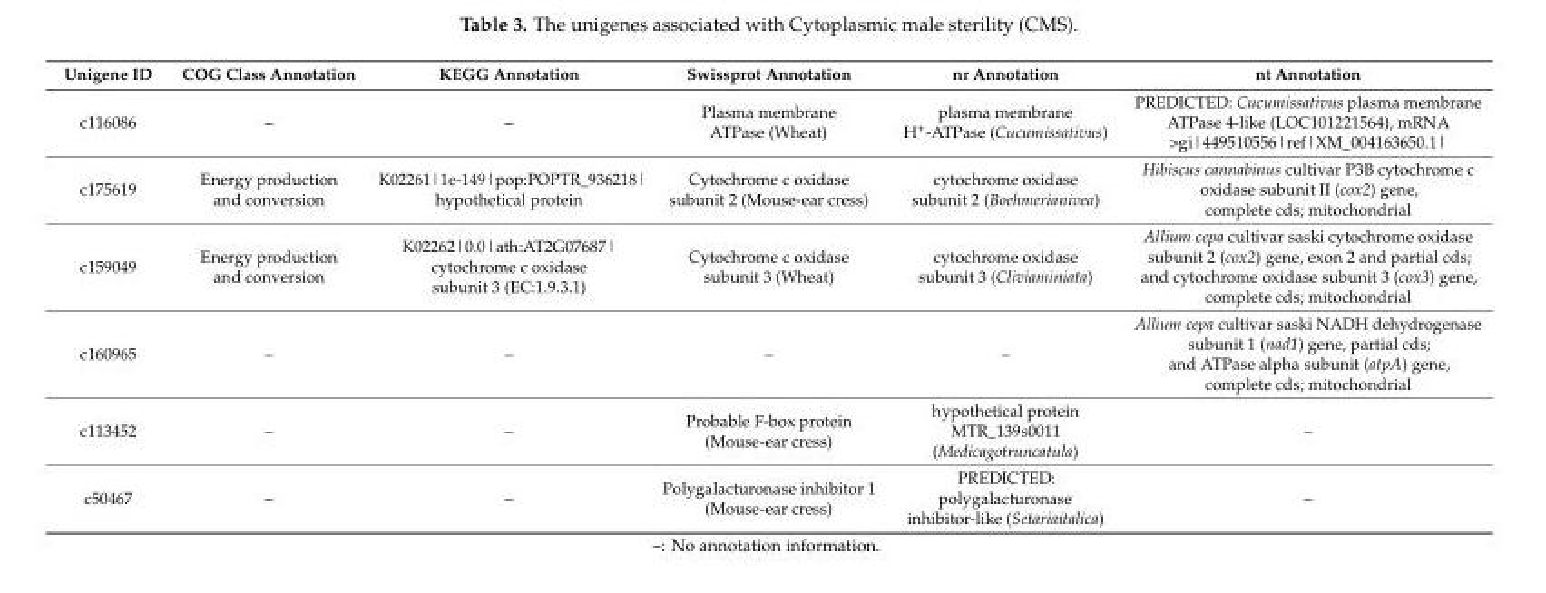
<table><thead><tr><td>Unigene ID</td><td>COG Class Annotation</td><td>KEGG Annotation</td><td>Swissprot Annotation</td><td>nr Annotation</td><td>nt Annotation</td></tr></thead><tbody><tr><td>c116086</td><td>–</td><td>–</td><td>Plasma membrane ATPase (Wheat)</td><td>plasma membrane H<sup>+</sup>-ATPase (Cucumissativus)</td><td>PREDICTED: Cucumissativus plasma membrane ATPase 4-like (LOC101221564), mRNA &gt;gi|449510556|ref|XM_004163650.1|</td></tr><tr><td>c175619</td><td>Energy production and conversion</td><td>K02261|1e-149|pop:POPTR_936218| hypothetical protein</td><td>Cytochrome c oxidase subunit 2 (Mouse-ear cress)</td><td>cytochrome oxidase subunit 2 (Boehmerianivea)</td><td>Hibiscus cannabinus cultivar P3B cytochrome c oxidase subunit II (cox2) gene, complete cds; mitochondrial</td></tr><tr><td>c159049</td><td>Energy production and conversion</td><td>K02262|0.0|ath:AT2G07687| cytochrome c oxidase subunit 3 (EC:1.9.3.1)</td><td>Cytochrome c oxidase subunit 3 (Wheat)</td><td>cytochrome oxidase subunit 3 (Cliviaminiata)</td><td>Allium cepa cultivar saski cytochrome oxidase subunit 2 (cox2) gene, exon 2 and partial cds; and cytochrome oxidase subunit 3 (cox3) gene, complete cds; mitochondrial</td></tr><tr><td>c160965</td><td>–</td><td>–</td><td>–</td><td>–</td><td>Allium cepa cultivar saski NADH dehydrogenase subunit 1 (nad1) gene, partial cds; and ATPase alpha subunit (atpA) gene, complete cds; mitochondrial</td></tr><tr><td>c113452</td><td>–</td><td>–</td><td>Probable F-box protein (Mouse-ear cress)</td><td>hypothetical protein MTR_139s0011 (Medicagotruncatula)</td><td>–</td></tr><tr><td>c50467</td><td>–</td><td>–</td><td>Polygalacturonase inhibitor 1 (Mouse-ear cress)</td><td>PREDICTED: polygalacturonase inhibitor-like (Setariaitalica)</td><td>–</td></tr></tbody></table>